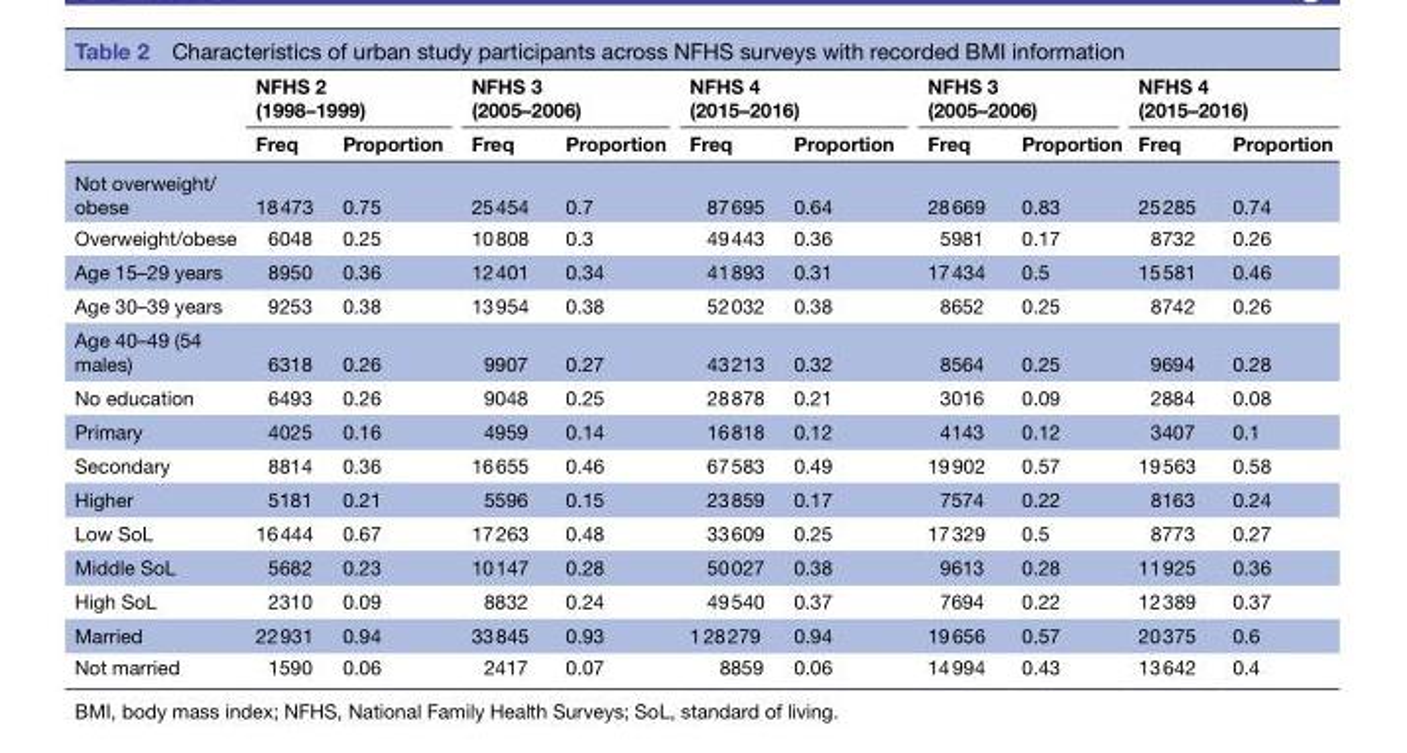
<table><thead><tr><td rowspan="2"></td><td colspan="2">NFHS 2 (1998–1999)</td><td colspan="2">NFHS 3 (2005–2006)</td><td colspan="2">NFHS 4 (2015–2016)</td><td colspan="2">NFHS 3 (2005–2006)</td><td colspan="2">NFHS 4 (2015–2016)</td></tr><tr><td>Freq</td><td>Proportion</td><td>Freq</td><td>Proportion</td><td>Freq</td><td>Proportion</td><td>Freq</td><td>Proportion</td><td>Freq</td><td>Proportion</td></tr></thead><tbody><tr><td>Not overweight/ obese</td><td>18 473</td><td>0.75</td><td>25 454</td><td>0.7</td><td>87 695</td><td>0.64</td><td>28 669</td><td>0.83</td><td>25 285</td><td>0.74</td></tr><tr><td>Overweight/obese</td><td>6048</td><td>0.25</td><td>10 808</td><td>0.3</td><td>49 443</td><td>0.36</td><td>5981</td><td>0.17</td><td>8732</td><td>0.26</td></tr><tr><td>Age 15–29 years</td><td>8950</td><td>0.36</td><td>12 401</td><td>0.34</td><td>41 893</td><td>0.31</td><td>17 434</td><td>0.5</td><td>15 581</td><td>0.46</td></tr><tr><td>Age 30–39 years</td><td>9253</td><td>0.38</td><td>13 954</td><td>0.38</td><td>52 032</td><td>0.38</td><td>8652</td><td>0.25</td><td>8742</td><td>0.26</td></tr><tr><td>Age 40–49 (54 males)</td><td>6318</td><td>0.26</td><td>9907</td><td>0.27</td><td>43 213</td><td>0.32</td><td>8564</td><td>0.25</td><td>9694</td><td>0.28</td></tr><tr><td>No education</td><td>6493</td><td>0.26</td><td>9048</td><td>0.25</td><td>28 878</td><td>0.21</td><td>3016</td><td>0.09</td><td>2884</td><td>0.08</td></tr><tr><td>Primary</td><td>4025</td><td>0.16</td><td>4959</td><td>0.14</td><td>16 818</td><td>0.12</td><td>4143</td><td>0.12</td><td>3407</td><td>0.1</td></tr><tr><td>Secondary</td><td>8814</td><td>0.36</td><td>16 655</td><td>0.46</td><td>67 583</td><td>0.49</td><td>19 902</td><td>0.57</td><td>19 563</td><td>0.58</td></tr><tr><td>Higher</td><td>5181</td><td>0.21</td><td>5596</td><td>0.15</td><td>23 859</td><td>0.17</td><td>7574</td><td>0.22</td><td>8163</td><td>0.24</td></tr><tr><td>Low SoL</td><td>16 444</td><td>0.67</td><td>17 263</td><td>0.48</td><td>33 609</td><td>0.25</td><td>17 329</td><td>0.5</td><td>8773</td><td>0.27</td></tr><tr><td>Middle SoL</td><td>5682</td><td>0.23</td><td>10 147</td><td>0.28</td><td>50 027</td><td>0.38</td><td>9613</td><td>0.28</td><td>11 925</td><td>0.36</td></tr><tr><td>High SoL</td><td>2310</td><td>0.09</td><td>8832</td><td>0.24</td><td>49 540</td><td>0.37</td><td>7694</td><td>0.22</td><td>12 389</td><td>0.37</td></tr><tr><td>Married</td><td>22 931</td><td>0.94</td><td>33 845</td><td>0.93</td><td>1 28 279</td><td>0.94</td><td>19 656</td><td>0.57</td><td>20 375</td><td>0.6</td></tr><tr><td>Not married</td><td>1590</td><td>0.06</td><td>2417</td><td>0.07</td><td>8859</td><td>0.06</td><td>14 994</td><td>0.43</td><td>13 642</td><td>0.4</td></tr></tbody></table>